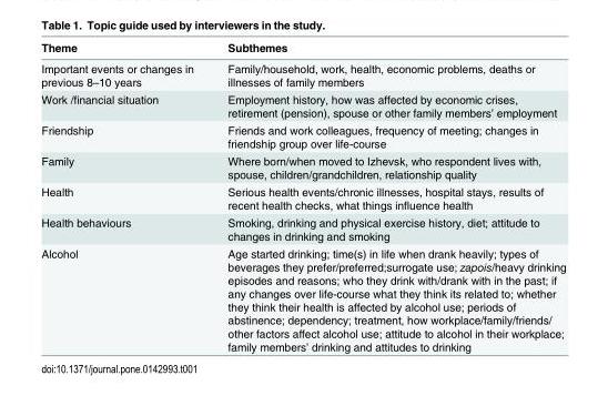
<table><thead><tr><td>Theme</td><td>Subthemes</td></tr></thead><tbody><tr><td>Important events or changes in previous 8–10 years</td><td>Family/household, work, health, economic problems, deaths or illnesses of family members</td></tr><tr><td>Work /financial situation</td><td>Employment history, how was affected by economic crises, retirement (pension), spouse or other family members’ employment</td></tr><tr><td>Friendship</td><td>Friends and work colleagues, frequency of meeting; changes in friendship group over life-course</td></tr><tr><td>Family</td><td>Where born/when moved to Izhevsk, who respondent lives with, spouse, children/grandchildren, relationship quality</td></tr><tr><td>Health</td><td>Serious health events/chronic illnesses, hospital stays, results of recent health checks, what things influence health</td></tr><tr><td>Health behaviours</td><td>Smoking, drinking and physical exercise history, diet; attitude to changes in drinking and smoking</td></tr><tr><td>Alcohol</td><td>Age started drinking; time(s) in life when drank heavily; types of beverages they prefer/preferred;surrogate use; zapois/heavy drinking episodes and reasons; who they drink with/drank with in the past; if any changes over life-course what they think its related to; whether they think their health is affected by alcohol use; periods of abstinence; dependency; treatment, how workplace/family/friends/ other factors affect alcohol use; attitude to alcohol in their workplace; family members’ drinking and attitudes to drinking</td></tr></tbody></table>